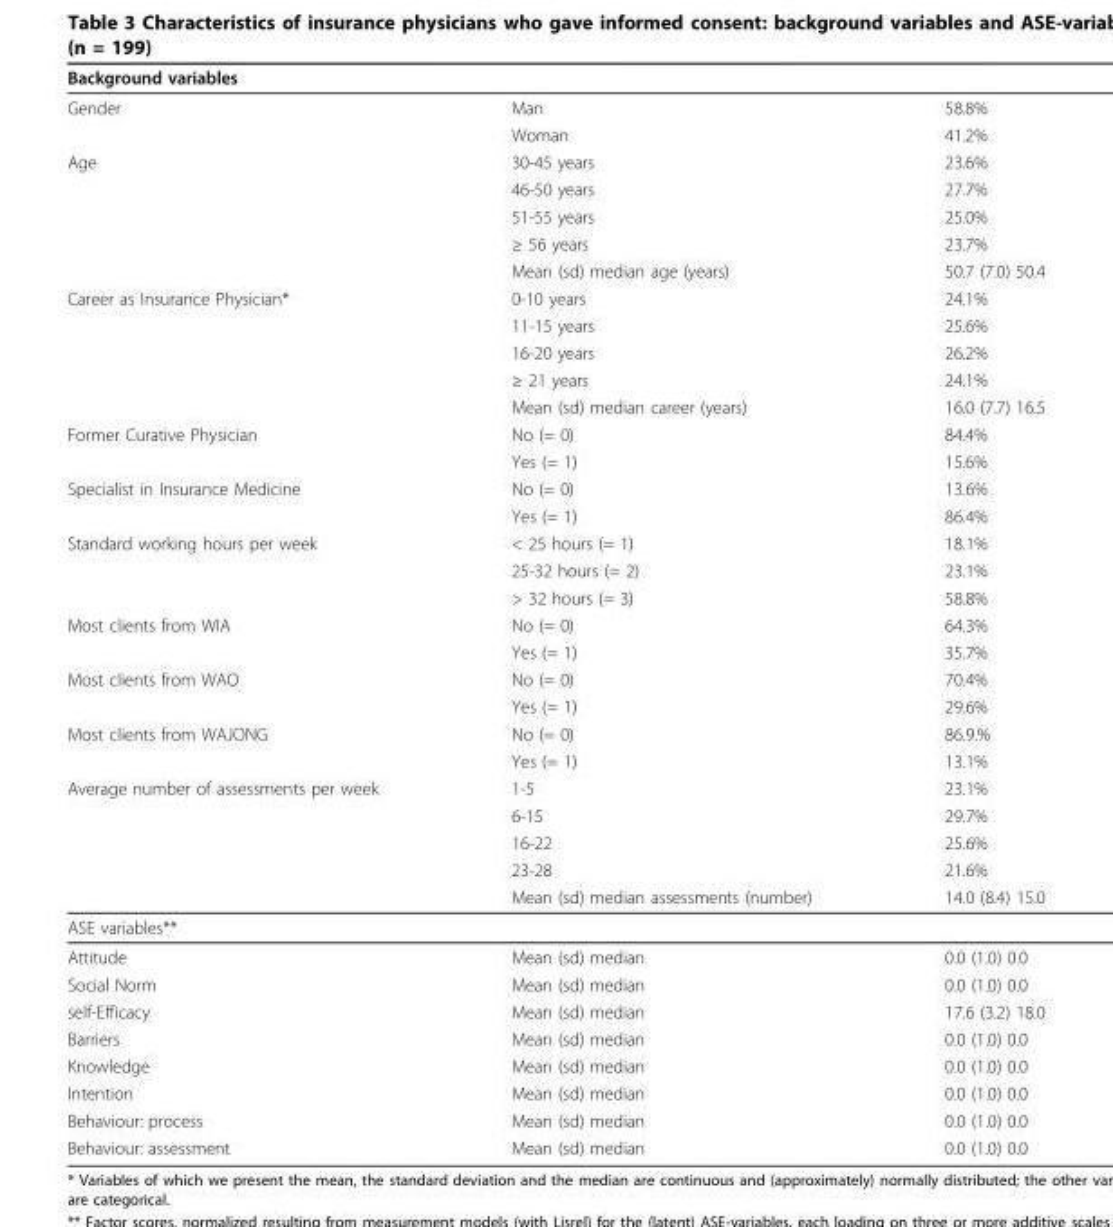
<table><thead><tr><td>Background variables</td><td></td><td></td></tr></thead><tbody><tr><td rowspan="2">Gender</td><td>Man</td><td>58.8%</td></tr><tr><td>Woman</td><td>41.2%</td></tr><tr><td rowspan="5">Age</td><td>30-45 years</td><td>23.6%</td></tr><tr><td>46-50 years</td><td>27.7%</td></tr><tr><td>51-55 years</td><td>25.0%</td></tr><tr><td>≥ 56 years</td><td>23.7%</td></tr><tr><td>Mean (sd) median age (years)</td><td>50.7 (7.0) 50.4</td></tr><tr><td rowspan="5">Career as Insurance Physician*</td><td>0-10 years</td><td>24.1%</td></tr><tr><td>11-15 years</td><td>25.6%</td></tr><tr><td>16-20 years</td><td>26.2%</td></tr><tr><td>≥ 21 years</td><td>24.1%</td></tr><tr><td>Mean (sd) median career (years)</td><td>16.0 (7.7) 16.5</td></tr><tr><td rowspan="2">Former Curative Physician</td><td>No (= 0)</td><td>84.4%</td></tr><tr><td>Yes (= 1)</td><td>15.6%</td></tr><tr><td rowspan="2">Specialist in Insurance Medicine</td><td>No (= 0)</td><td>13.6%</td></tr><tr><td>Yes (= 1)</td><td>86.4%</td></tr><tr><td rowspan="3">Standard working hours per week</td><td>&lt; 25 hours (= 1)</td><td>18.1%</td></tr><tr><td>25-32 hours (= 2)</td><td>23.1%</td></tr><tr><td>&gt; 32 hours (= 3)</td><td>58.8%</td></tr><tr><td rowspan="2">Most clients from WIA</td><td>No (= 0)</td><td>64.3%</td></tr><tr><td>Yes (= 1)</td><td>35.7%</td></tr><tr><td rowspan="2">Most clients from WAO</td><td>No (= 0)</td><td>70.4%</td></tr><tr><td>Yes (= 1)</td><td>29.6%</td></tr><tr><td rowspan="2">Most clients from WAJONG</td><td>No (= 0)</td><td>86.9.%</td></tr><tr><td>Yes (= 1)</td><td>13.1%</td></tr><tr><td rowspan="5">Average number of assessments per week</td><td>1-5</td><td>23.1%</td></tr><tr><td>6-15</td><td>29.7%</td></tr><tr><td>16-22</td><td>25.6%</td></tr><tr><td>23-28</td><td>21.6%</td></tr><tr><td>Mean (sd) median assessments (number)</td><td>14.0 (8.4) 15.0</td></tr><tr><td colspan="3">ASE variables**</td></tr><tr><td>Attitude</td><td>Mean (sd) median</td><td>0.0 (1.0) 0.0</td></tr><tr><td>Social Norm</td><td>Mean (sd) median</td><td>0.0 (1.0) 0.0</td></tr><tr><td>self-Efficacy</td><td>Mean (sd) median</td><td>17.6 (3.2) 18.0</td></tr><tr><td>Barriers</td><td>Mean (sd) median</td><td>0.0 (1.0) 0.0</td></tr><tr><td>Knowledge</td><td>Mean (sd) median</td><td>0.0 (1.0) 0.0</td></tr><tr><td>Intention</td><td>Mean (sd) median</td><td>0.0 (1.0) 0.0</td></tr><tr><td>Behaviour: process</td><td>Mean (sd) median</td><td>0.0 (1.0) 0.0</td></tr><tr><td>Behaviour: assessment</td><td>Mean (sd) median</td><td>0.0 (1.0) 0.0</td></tr></tbody></table>